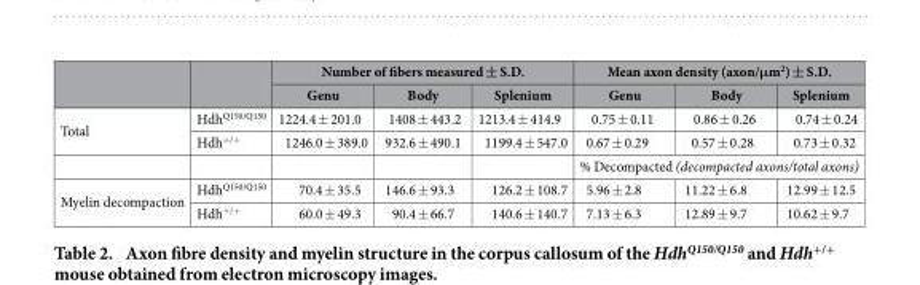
<table><thead><tr><td rowspan="2"></td><td rowspan="2"></td><td colspan="3">Number of fibers measured ± S.D.</td><td colspan="3">Mean axon density (axon/μm<sup>2</sup>) ± S.D.</td></tr><tr><td>Genu</td><td>Body</td><td>Splenium</td><td>Genu</td><td>Body</td><td>Splenium</td></tr></thead><tbody><tr><td rowspan="3">Total</td><td>Hdh<sup>Q150/Q150</sup></td><td>1224.4 ± 201.0</td><td>1408 ± 443.2</td><td>1213.4 ± 414.9</td><td>0.75 ± 0.11</td><td>0.86 ± 0.26</td><td>0.74 ± 0.24</td></tr><tr><td>Hdh<sup>+/+</sup></td><td>1246.0 ± 389.0</td><td>932.6 ± 490.1</td><td>1199.4 ± 547.0</td><td>0.67 ± 0.29</td><td>0.57 ± 0.28</td><td>0.73 ± 0.32</td></tr><tr><td></td><td></td><td></td><td></td><td colspan="3">% Decompacted (decompacted axons/total axons)</td></tr><tr><td rowspan="2">Myelin decompaction</td><td>Hdh<sup>Q150/Q150</sup></td><td>70.4 ± 35.5</td><td>146.6 ± 93.3</td><td>126.2 ± 108.7</td><td>5.96 ± 2.8</td><td>11.22 ± 6.8</td><td>12.99 ± 12.5</td></tr><tr><td>Hdh<sup>+/+</sup></td><td>60.0 ± 49.3</td><td>90.4 ± 66.7</td><td>140.6 ± 140.7</td><td>7.13 ± 6.3</td><td>12.89 ± 9.7</td><td>10.62 ± 9.7</td></tr></tbody></table>